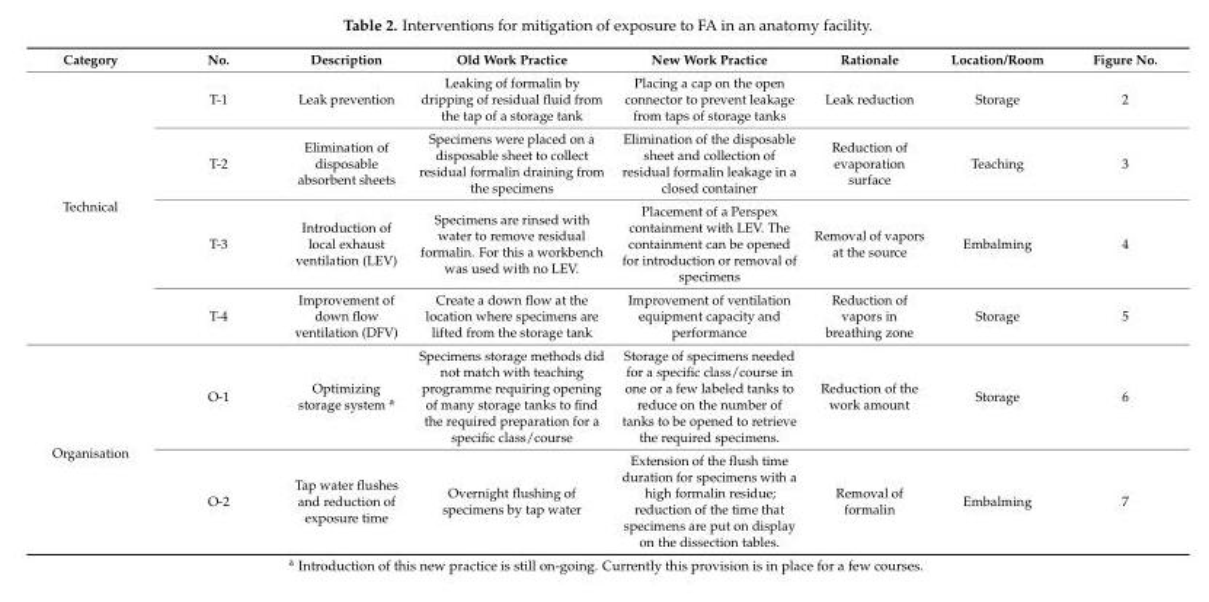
<table><thead><tr><td>Category</td><td>No.</td><td>Description</td><td>Old Work Practice</td><td>New Work Practice</td><td>Rationale</td><td>Location/Room</td><td>Figure No.</td></tr></thead><tbody><tr><td rowspan="4">Technical</td><td>T-1</td><td>Leak prevention</td><td>Leaking of formalin by dripping of residual fluid from the tap of a storage tank</td><td>Placing a cap on the open connector to prevent leakage from taps of storage tanks</td><td>Leak reduction</td><td>Storage</td><td>2</td></tr><tr><td>T-2</td><td>Elimination of disposable absorbent sheets</td><td>Specimens were placed on a disposable sheet to collect residual formalin draining from the specimens</td><td>Elimination of the disposable sheet and collection of residual formalin leakage in a closed container</td><td>Reduction of evaporation surface</td><td>Teaching</td><td>3</td></tr><tr><td>T-3</td><td>Introduction of local exhaust ventilation (LEV)</td><td>Specimens are rinsed with water to remove residual formalin. For this a workbench was used with no LEV.</td><td>Placement of a Perspex containment with LEV. The containment can be opened for introduction or removal of specimens</td><td>Removal of vapors at the source</td><td>Embalming</td><td>4</td></tr><tr><td>T-4</td><td>Improvement of down flow ventilation (DFV)</td><td>Create a down flow at the location where specimens are lifted from the storage tank</td><td>Improvement of ventilation equipment capacity and performance</td><td>Reduction of vapors in breathing zone</td><td>Storage</td><td>5</td></tr><tr><td rowspan="2">Organisation</td><td>O-1</td><td>Optimizing storage system <sup>a</sup></td><td>Specimens storage methods did not match with teaching programme requiring opening of many storage tanks to find the required preparation for a specific class/course</td><td>Storage of specimens needed for a specific class/course in one or a few labeled tanks to reduce on the number of tanks to be opened to retrieve the required specimens.</td><td>Reduction of the work amount</td><td>Storage</td><td>6</td></tr><tr><td>O-2</td><td>Tap water flushes and reduction of exposure time</td><td>Overnight flushing of specimens by tap water</td><td>Extension of the flush time duration for specimens with a high formalin residue; reduction of the time that specimens are put on display on the dissection tables.</td><td>Removal of formalin</td><td>Embalming</td><td>7</td></tr></tbody></table>